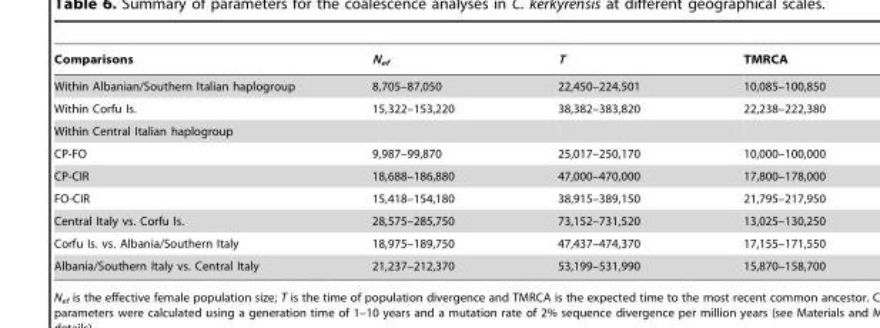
<table><thead><tr><td>Comparisons</td><td>N<sub>ef</sub></td><td>T</td><td>TMRCA</td></tr></thead><tbody><tr><td>Within Albanian/Southern Italian haplogroup</td><td>8,705–87,050</td><td>22,450–224,501</td><td>10,085–100,850</td></tr><tr><td>Within Corfu Is.</td><td>15,322–153,220</td><td>38,382–383,820</td><td>22,238–222,380</td></tr><tr><td colspan="4">Within Central Italian haplogroup</td></tr><tr><td>CP-FO</td><td>9,987–99,870</td><td>25,017–250,170</td><td>10,000–100,000</td></tr><tr><td>CP-CIR</td><td>18,688–186,880</td><td>47,000–470,000</td><td>17,800–178,000</td></tr><tr><td>FO-CIR</td><td>15,418–154,180</td><td>38,915–389,150</td><td>21,795–217,950</td></tr><tr><td>Central Italy vs. Corfu Is.</td><td>28,575–285,750</td><td>73,152–731,520</td><td>13,025–130,250</td></tr><tr><td>Corfu Is. vs. Albania/Southern Italy</td><td>18,975–189,750</td><td>47,437–474,370</td><td>17,155–171,550</td></tr><tr><td>Albania/Southern Italy vs. Central Italy</td><td>21,237–212,370</td><td>53,199–531,990</td><td>15,870–158,700</td></tr></tbody></table>